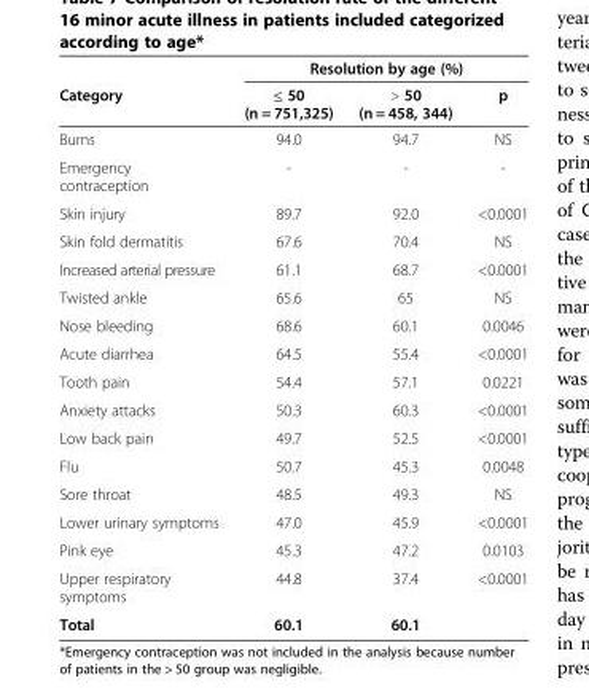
<table><thead><tr><td rowspan="2">Category</td><td colspan="3">Resolution by age (%)</td></tr><tr><td>≤ 50 (n = 751,325)</td><td>&gt; 50 (n = 458, 344)</td><td>p</td></tr></thead><tbody><tr><td>Burns</td><td>94.0</td><td>94.7</td><td>NS</td></tr><tr><td>Emergency contraception</td><td>-</td><td>-</td><td>-</td></tr><tr><td>Skin injury</td><td>89.7</td><td>92.0</td><td>&lt;0.0001</td></tr><tr><td>Skin fold dermatitis</td><td>67.6</td><td>70.4</td><td>NS</td></tr><tr><td>Increased arterial pressure</td><td>61.1</td><td>68.7</td><td>&lt;0.0001</td></tr><tr><td>Twisted ankle</td><td>65.6</td><td>65</td><td>NS</td></tr><tr><td>Nose bleeding</td><td>68.6</td><td>60.1</td><td>0.0046</td></tr><tr><td>Acute diarrhea</td><td>64.5</td><td>55.4</td><td>&lt;0.0001</td></tr><tr><td>Tooth pain</td><td>54.4</td><td>57.1</td><td>0.0221</td></tr><tr><td>Anxiety attacks</td><td>50.3</td><td>60.3</td><td>&lt;0.0001</td></tr><tr><td>Low back pain</td><td>49.7</td><td>52.5</td><td>&lt;0.0001</td></tr><tr><td>Flu</td><td>50.7</td><td>45.3</td><td>0.0048</td></tr><tr><td>Sore throat</td><td>48.5</td><td>49.3</td><td>NS</td></tr><tr><td>Lower urinary symptoms</td><td>47.0</td><td>45.9</td><td>&lt;0.0001</td></tr><tr><td>Pink eye</td><td>45.3</td><td>47.2</td><td>0.0103</td></tr><tr><td>Upper respiratory symptoms</td><td>44.8</td><td>37.4</td><td>&lt;0.0001</td></tr><tr><td>Total</td><td>60.1</td><td>60.1</td><td></td></tr></tbody></table>